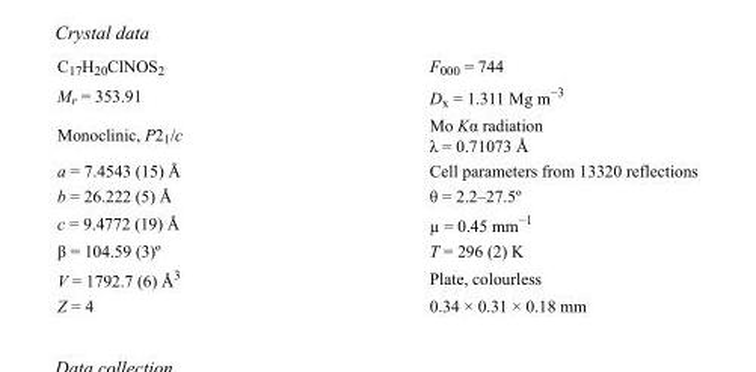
<table><tbody><tr><td>C<sub>17</sub>H<sub>20</sub>ClNOS<sub>2</sub></td><td>F<sub>000</sub> = 744</td></tr><tr><td>M<sub>r</sub> = 353.91</td><td>D<sub>x</sub> = 1.311 Mg m<sup>−3</sup></td></tr><tr><td>Monoclinic, P2<sub>1</sub>/c</td><td>Mo Kα radiation λ = 0.71073 Å</td></tr><tr><td>a = 7.4543 (15) Å</td><td>Cell parameters from 13320 reflections</td></tr><tr><td>b = 26.222 (5) Å</td><td>θ = 2.2–27.5º</td></tr><tr><td>c = 9.4772 (19) Å</td><td>µ = 0.45 mm<sup>−1</sup></td></tr><tr><td>β = 104.59 (3)º</td><td>T = 296 (2) K</td></tr><tr><td>V = 1792.7 (6) Å<sup>3</sup></td><td>Plate, colourless</td></tr><tr><td>Z = 4</td><td>0.34 × 0.31 × 0.18 mm</td></tr></tbody></table>